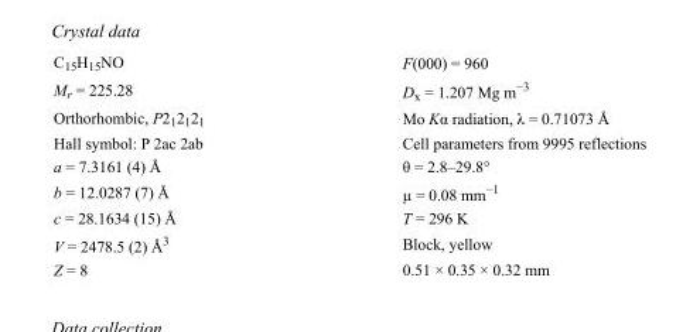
<table><tbody><tr><td>C<sub>15</sub>H<sub>15</sub>NO</td><td>F(000) = 960</td></tr><tr><td>M<sub>r</sub> = 225.28</td><td>D<sub>x</sub> = 1.207 Mg m<sup>−3</sup></td></tr><tr><td>Orthorhombic, P2<sub>1</sub>2<sub>1</sub>2<sub>1</sub></td><td>Mo Kα radiation, λ = 0.71073 Å</td></tr><tr><td>Hall symbol: P 2ac 2ab</td><td>Cell parameters from 9995 reflections</td></tr><tr><td>a = 7.3161 (4) Å</td><td>θ = 2.8–29.8°</td></tr><tr><td>b = 12.0287 (7) Å</td><td>µ = 0.08 mm<sup>−1</sup></td></tr><tr><td>c = 28.1634 (15) Å</td><td>T = 296 K</td></tr><tr><td>V = 2478.5 (2) Å<sup>3</sup></td><td>Block, yellow</td></tr><tr><td>Z = 8</td><td>0.51 × 0.35 × 0.32 mm</td></tr></tbody></table>